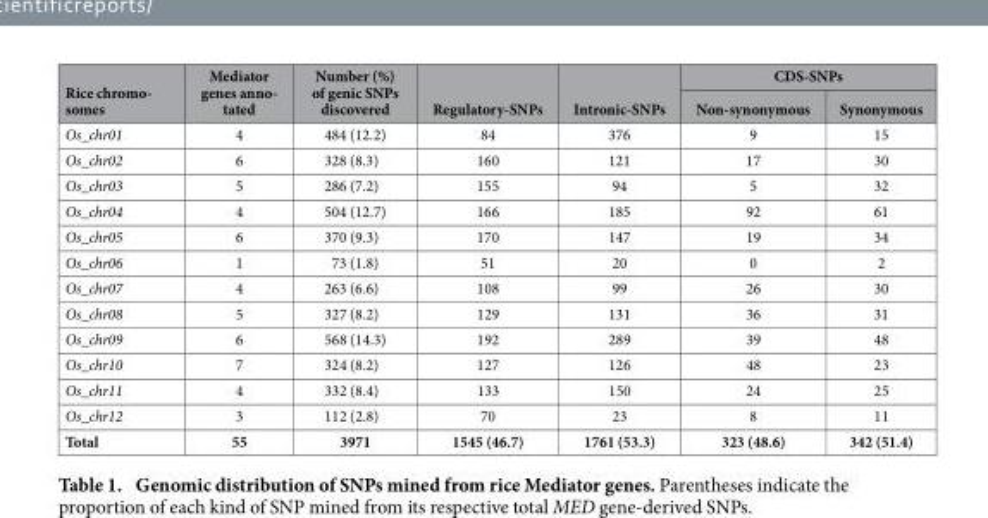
<table><thead><tr><td rowspan="2">Rice chromo- somes</td><td rowspan="2">Mediator genes anno- tated</td><td rowspan="2">Number (%) of genic SNPs discovered</td><td rowspan="2">Regulatory-SNPs</td><td rowspan="2">Intronic-SNPs</td><td colspan="2">CDS-SNPs</td></tr><tr><td>Non-synonymous</td><td>Synonymous</td></tr></thead><tbody><tr><td>Os_chr01</td><td>4</td><td>484 (12.2)</td><td>84</td><td>376</td><td>9</td><td>15</td></tr><tr><td>Os_chr02</td><td>6</td><td>328 (8.3)</td><td>160</td><td>121</td><td>17</td><td>30</td></tr><tr><td>Os_chr03</td><td>5</td><td>286 (7.2)</td><td>155</td><td>94</td><td>5</td><td>32</td></tr><tr><td>Os_chr04</td><td>4</td><td>504 (12.7)</td><td>166</td><td>185</td><td>92</td><td>61</td></tr><tr><td>Os_chr05</td><td>6</td><td>370 (9.3)</td><td>170</td><td>147</td><td>19</td><td>34</td></tr><tr><td>Os_chr06</td><td>1</td><td>73 (1.8)</td><td>51</td><td>20</td><td>0</td><td>2</td></tr><tr><td>Os_chr07</td><td>4</td><td>263 (6.6)</td><td>108</td><td>99</td><td>26</td><td>30</td></tr><tr><td>Os_chr08</td><td>5</td><td>327 (8.2)</td><td>129</td><td>131</td><td>36</td><td>31</td></tr><tr><td>Os_chr09</td><td>6</td><td>568 (14.3)</td><td>192</td><td>289</td><td>39</td><td>48</td></tr><tr><td>Os_chr10</td><td>7</td><td>324 (8.2)</td><td>127</td><td>126</td><td>48</td><td>23</td></tr><tr><td>Os_chr11</td><td>4</td><td>332 (8.4)</td><td>133</td><td>150</td><td>24</td><td>25</td></tr><tr><td>Os_chr12</td><td>3</td><td>112 (2.8)</td><td>70</td><td>23</td><td>8</td><td>11</td></tr><tr><td>Total</td><td>55</td><td>3971</td><td>1545 (46.7)</td><td>1761 (53.3)</td><td>323 (48.6)</td><td>342 (51.4)</td></tr></tbody></table>